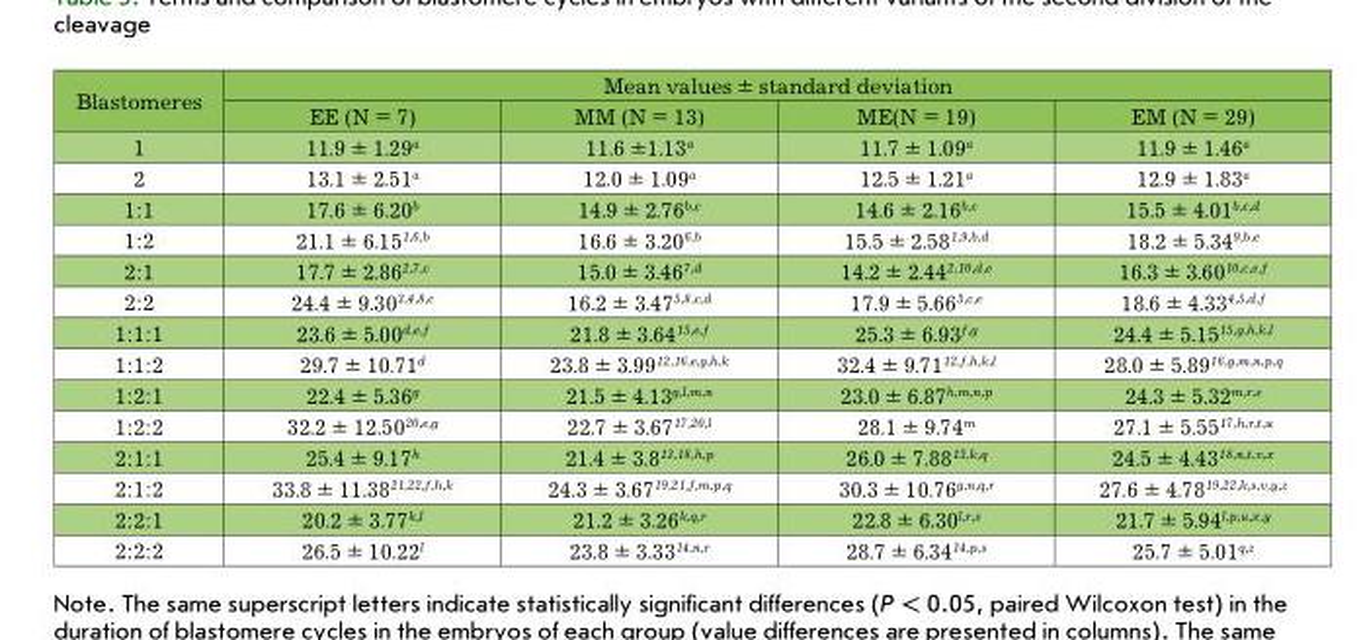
<table><thead><tr><td rowspan="2">Blastomeres</td><td colspan="4">Mean values ± standard deviation</td></tr><tr><td>EE (N = 7)</td><td>ММ (N = 13)</td><td>МЕ(N = 19)</td><td>EМ (N = 29)</td></tr></thead><tbody><tr><td>1</td><td>11.9 ± 1.29<sup>a</sup></td><td>11.6 ±1.13<sup>a</sup></td><td>11.7 ± 1.09<sup>a</sup></td><td>11.9 ± 1.46<sup>a</sup></td></tr><tr><td>2</td><td>13.1 ± 2.51<sup>a</sup></td><td>12.0 ± 1.09<sup>a</sup></td><td>12.5 ± 1.21<sup>a</sup></td><td>12.9 ± 1.83<sup>a</sup></td></tr><tr><td>1:1</td><td>17.6 ± 6.20<sup>b</sup></td><td>14.9 ± 2.76<sup>b,c</sup></td><td>14.6 ± 2.16<sup>b,c</sup></td><td>15.5 ± 4.01<sup>b,c,d</sup></td></tr><tr><td>1:2</td><td>21.1 ± 6.15<sup>1,6,b</sup></td><td>16.6 ± 3.20<sup>6,b</sup></td><td>15.5 ± 2.58<sup>1,9,b,d</sup></td><td>18.2 ± 5.34<sup>9,b,e</sup></td></tr><tr><td>2:1</td><td>17.7 ± 2.86<sup>2,7,c</sup></td><td>15.0 ± 3.46<sup>7,d</sup></td><td>14.2 ± 2.44<sup>2,10,d,e</sup></td><td>16.3 ± 3.60<sup>10,c,e,f</sup></td></tr><tr><td>2:2</td><td>24.4 ± 9.30<sup>3,4,8,c</sup></td><td>16.2 ± 3.47<sup>5,8,c,d</sup></td><td>17.9 ± 5.66<sup>3,c,e</sup></td><td>18.6 ± 4.33<sup>4,5,d,f</sup></td></tr><tr><td>1:1:1</td><td>23.6 ± 5.00<sup>d,e,f</sup></td><td>21.8 ± 3.64<sup>15,e,f</sup></td><td>25.3 ± 6.93<sup>f,g</sup></td><td>24.4 ± 5.15<sup>15,g,h,k,l</sup></td></tr><tr><td>1:1:2</td><td>29.7 ± 10.71<sup>d</sup></td><td>23.8 ± 3.991<sup>2,16,e,g,h,k</sup></td><td>32.4 ± 9.711<sup>2,f,h,k,l</sup></td><td>28.0 ± 5.891<sup>6,g,m,n,p,q</sup></td></tr><tr><td>1:2:1</td><td>22.4 ± 5.36<sup>g</sup></td><td>21.5 ± 4.13<sup>g,l,m,n</sup></td><td>23.0 ± 6.87<sup>h,m,n,p</sup></td><td>24.3 ± 5.32<sup>m,r,s</sup></td></tr><tr><td>1:2:2</td><td>32.2 ± 12.50<sup>20,e,g</sup></td><td>22.7 ± 3.67<sup>17,20,l</sup></td><td>28.1 ± 9.74<sup>m</sup></td><td>27.1 ± 5.55<sup>17,h,r,t,u</sup></td></tr><tr><td>2:1:1</td><td>25.4 ± 9.17<sup>h</sup></td><td>21.4 ± 3.81<sup>3,18,h,p</sup></td><td>26.0 ± 7.88<sup>13,k,q</sup></td><td>24.5 ± 4.43<sup>18,n,t,v,x</sup></td></tr><tr><td>2:1:2</td><td>33.8 ± 11.38<sup>21,22,f,h,k</sup></td><td>24.3 ± 3.67<sup>19,21,f,m,p,q</sup></td><td>30.3 ± 10.76<sup>g,n,q,r</sup></td><td>27.6 ± 4.78<sup>19,22,k,s,v,y,z</sup></td></tr><tr><td>2:2:1</td><td>20.2 ± 3.77<sup>k,l</sup></td><td>21.2 ± 3.26<sup>k,q,r</sup></td><td>22.8 ± 6.30<sup>l,r,s</sup></td><td>21.7 ± 5.94<sup>l,p,u,x,y</sup></td></tr><tr><td>2:2:2</td><td>26.5 ± 10.22<sup>l</sup></td><td>23.8 ± 3.33<sup>14,n,r</sup></td><td>28.7 ± 6.34<sup>14,p,s</sup></td><td>25.7 ± 5.01<sup>q,z</sup></td></tr></tbody></table>